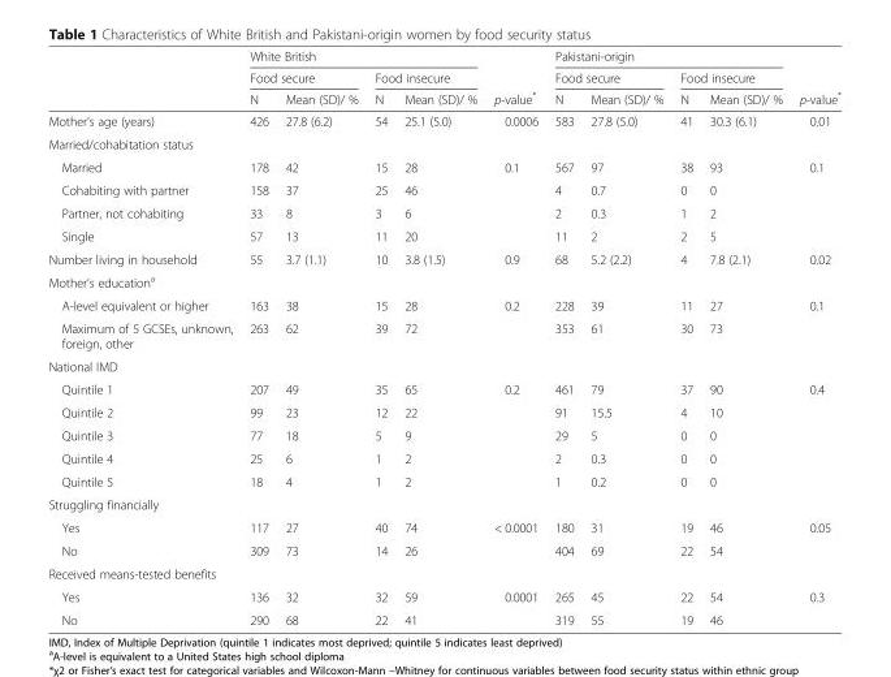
<table><thead><tr><td rowspan="3"></td><td colspan="4">White British</td><td rowspan="3">p-value*</td><td colspan="4">Pakistani-origin</td><td rowspan="3">p-value*</td></tr><tr><td colspan="2">Food secure</td><td colspan="2">Food insecure</td><td colspan="2">Food secure</td><td colspan="2">Food insecure</td></tr><tr><td>N</td><td>Mean (SD)/ %</td><td>N</td><td>Mean (SD)/ %</td><td>N</td><td>Mean (SD)/ %</td><td>N</td><td>Mean (SD)/ %</td></tr></thead><tbody><tr><td>Mother’s age (years)</td><td>426</td><td>27.8 (6.2)</td><td>54</td><td>25.1 (5.0)</td><td>0.0006</td><td>583</td><td>27.8 (5.0)</td><td>41</td><td>30.3 (6.1)</td><td>0.01</td></tr><tr><td colspan="11">Married/cohabitation status</td></tr><tr><td>Married</td><td>178</td><td>42</td><td>15</td><td>28</td><td>0.1</td><td>567</td><td>97</td><td>38</td><td>93</td><td>0.1</td></tr><tr><td>Cohabiting with partner</td><td>158</td><td>37</td><td>25</td><td>46</td><td></td><td>4</td><td>0.7</td><td>0</td><td>0</td><td></td></tr><tr><td>Partner, not cohabiting</td><td>33</td><td>8</td><td>3</td><td>6</td><td></td><td>2</td><td>0.3</td><td>1</td><td>2</td><td></td></tr><tr><td>Single</td><td>57</td><td>13</td><td>11</td><td>20</td><td></td><td>11</td><td>2</td><td>2</td><td>5</td><td></td></tr><tr><td>Number living in household</td><td>55</td><td>3.7 (1.1)</td><td>10</td><td>3.8 (1.5)</td><td>0.9</td><td>68</td><td>5.2 (2.2)</td><td>4</td><td>7.8 (2.1)</td><td>0.02</td></tr><tr><td colspan="11">Mother’s education<sup>a</sup></td></tr><tr><td>A-level equivalent or higher</td><td>163</td><td>38</td><td>15</td><td>28</td><td>0.2</td><td>228</td><td>39</td><td>11</td><td>27</td><td>0.1</td></tr><tr><td>Maximum of 5 GCSEs, unknown, foreign, other</td><td>263</td><td>62</td><td>39</td><td>72</td><td></td><td>353</td><td>61</td><td>30</td><td>73</td><td></td></tr><tr><td colspan="11">National IMD</td></tr><tr><td>Quintile 1</td><td>207</td><td>49</td><td>35</td><td>65</td><td>0.2</td><td>461</td><td>79</td><td>37</td><td>90</td><td>0.4</td></tr><tr><td>Quintile 2</td><td>99</td><td>23</td><td>12</td><td>22</td><td></td><td>91</td><td>15.5</td><td>4</td><td>10</td><td></td></tr><tr><td>Quintile 3</td><td>77</td><td>18</td><td>5</td><td>9</td><td></td><td>29</td><td>5</td><td>0</td><td>0</td><td></td></tr><tr><td>Quintile 4</td><td>25</td><td>6</td><td>1</td><td>2</td><td></td><td>2</td><td>0.3</td><td>0</td><td>0</td><td></td></tr><tr><td>Quintile 5</td><td>18</td><td>4</td><td>1</td><td>2</td><td></td><td>1</td><td>0.2</td><td>0</td><td>0</td><td></td></tr><tr><td colspan="11">Struggling financially</td></tr><tr><td>Yes</td><td>117</td><td>27</td><td>40</td><td>74</td><td>&lt; 0.0001</td><td>180</td><td>31</td><td>19</td><td>46</td><td>0.05</td></tr><tr><td>No</td><td>309</td><td>73</td><td>14</td><td>26</td><td></td><td>404</td><td>69</td><td>22</td><td>54</td><td></td></tr><tr><td colspan="11">Received means-tested benefits</td></tr><tr><td>Yes</td><td>136</td><td>32</td><td>32</td><td>59</td><td>0.0001</td><td>265</td><td>45</td><td>22</td><td>54</td><td>0.3</td></tr><tr><td>No</td><td>290</td><td>68</td><td>22</td><td>41</td><td></td><td>319</td><td>55</td><td>19</td><td>46</td><td></td></tr></tbody></table>